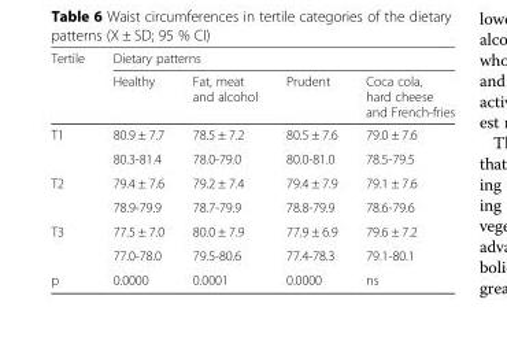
<table><thead><tr><td rowspan="2">Tertile</td><td colspan="4">Dietary patterns</td></tr><tr><td>Healthy</td><td>Fat, meat and alcohol</td><td>Prudent</td><td>Coca cola, hard cheese and French-fries</td></tr></thead><tbody><tr><td rowspan="2">T1</td><td>80.9 ± 7.7</td><td>78.5 ± 7.2</td><td>80.5 ± 7.6</td><td>79.0 ± 7.6</td></tr><tr><td>80.3-81.4</td><td>78.0-79.0</td><td>80.0-81.0</td><td>78.5-79.5</td></tr><tr><td rowspan="2">T2</td><td>79.4 ± 7.6</td><td>79.2 ± 7.4</td><td>79.4 ± 7.9</td><td>79.1 ± 7.6</td></tr><tr><td>78.9-79.9</td><td>78.7-79.9</td><td>78.8-79.9</td><td>78.6-79.6</td></tr><tr><td rowspan="2">T3</td><td>77.5 ± 7.0</td><td>80.0 ± 7.9</td><td>77.9 ± 6.9</td><td>79.6 ± 7.2</td></tr><tr><td>77.0-78.0</td><td>79.5-80.6</td><td>77.4-78.3</td><td>79.1-80.1</td></tr><tr><td>p</td><td>0.0000</td><td>0.0001</td><td>0.0000</td><td>ns</td></tr></tbody></table>